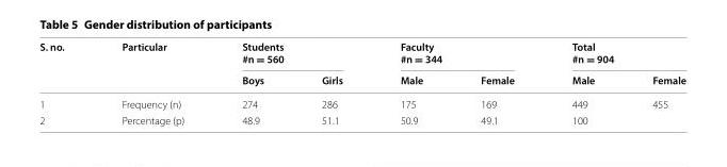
<table><thead><tr><td rowspan="2">S. no.</td><td rowspan="2">Particular</td><td colspan="2">Students #n = 560</td><td colspan="2">Faculty #n = 344</td><td colspan="2">Total #n = 904</td></tr><tr><td>Boys</td><td>Girls</td><td>Male</td><td>Female</td><td>Male</td><td>Female</td></tr></thead><tbody><tr><td>1</td><td>Frequency (n)</td><td>274</td><td>286</td><td>175</td><td>169</td><td>449</td><td>455</td></tr><tr><td>2</td><td>Percentage (p)</td><td>48.9</td><td>51.1</td><td>50.9</td><td>49.1</td><td colspan="2">100</td></tr></tbody></table>